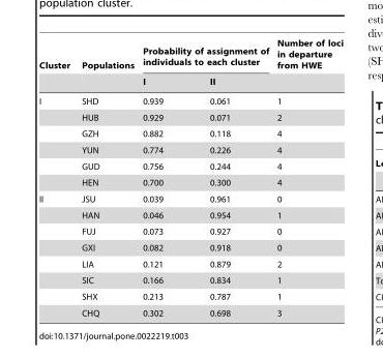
<table><thead><tr><td rowspan="2">Cluster</td><td rowspan="2">Populations</td><td colspan="2">Probability of assignment of individuals to each cluster</td><td rowspan="2">Number of loci in departure from HWE</td></tr><tr><td>I</td><td>II</td></tr></thead><tbody><tr><td rowspan="6">I</td><td>SHD</td><td>0.939</td><td>0.061</td><td>1</td></tr><tr><td>HUB</td><td>0.929</td><td>0.071</td><td>2</td></tr><tr><td>GZH</td><td>0.882</td><td>0.118</td><td>4</td></tr><tr><td>YUN</td><td>0.774</td><td>0.226</td><td>4</td></tr><tr><td>GUD</td><td>0.756</td><td>0.244</td><td>4</td></tr><tr><td>HEN</td><td>0.700</td><td>0.300</td><td>4</td></tr><tr><td rowspan="8">II</td><td>JSU</td><td>0.039</td><td>0.961</td><td>0</td></tr><tr><td>HAN</td><td>0.046</td><td>0.954</td><td>1</td></tr><tr><td>FUJ</td><td>0.073</td><td>0.927</td><td>0</td></tr><tr><td>GXI</td><td>0.082</td><td>0.918</td><td>0</td></tr><tr><td>LIA</td><td>0.121</td><td>0.879</td><td>2</td></tr><tr><td>SIC</td><td>0.166</td><td>0.834</td><td>1</td></tr><tr><td>SHX</td><td>0.213</td><td>0.787</td><td>1</td></tr><tr><td>CHQ</td><td>0.302</td><td>0.698</td><td>3</td></tr></tbody></table>